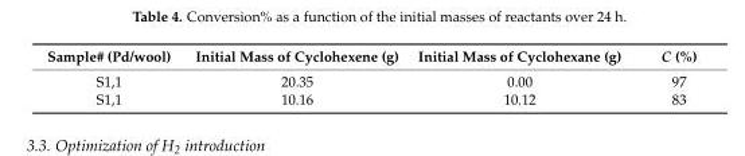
<table><thead><tr><td>Sample# (Pd/wool)</td><td>Initial Mass of Cyclohexene (g)</td><td>Initial Mass of Cyclohexane (g)</td><td>C (%)</td></tr></thead><tbody><tr><td>S1,1</td><td>20.35</td><td>0.00</td><td>97</td></tr><tr><td>S1,1</td><td>10.16</td><td>10.12</td><td>83</td></tr></tbody></table>